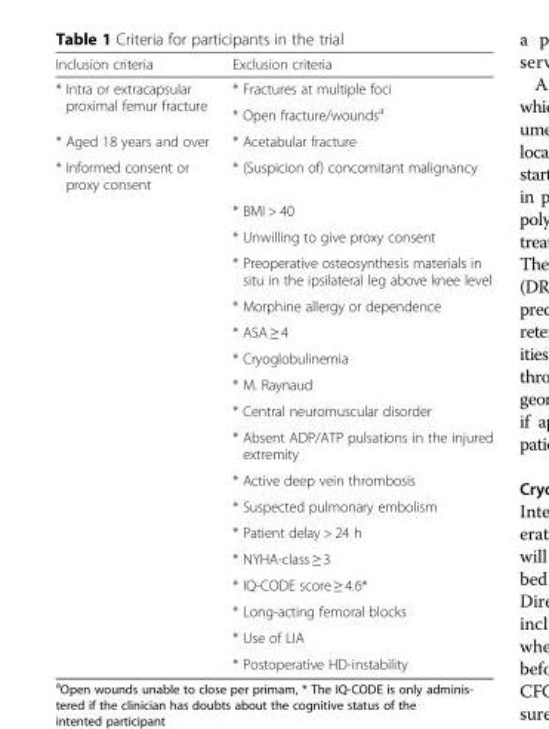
<table><thead><tr><td>Inclusion criteria</td><td>Exclusion criteria</td></tr></thead><tbody><tr><td rowspan="2">* Intra or extracapsular proximal femur fracture</td><td>* Fractures at multiple foci</td></tr><tr><td>* Open fracture/wounds<sup>a</sup></td></tr><tr><td>* Aged 18 years and over</td><td>* Acetabular fracture</td></tr><tr><td rowspan="18">* Informed consent or proxy consent</td><td>* (Suspicion of) concomitant malignancy</td></tr><tr><td>* BMI &gt; 40</td></tr><tr><td>* Unwilling to give proxy consent</td></tr><tr><td>* Preoperative osteosynthesis materials in situ in the ipsilateral leg above knee level</td></tr><tr><td>* Morphine allergy or dependence</td></tr><tr><td>* ASA ≥ 4</td></tr><tr><td>* Cryoglobulinemia</td></tr><tr><td>* M. Raynaud</td></tr><tr><td>* Central neuromuscular disorder</td></tr><tr><td>* Absent ADP/ATP pulsations in the injured extremity</td></tr><tr><td>* Active deep vein thrombosis</td></tr><tr><td>* Suspected pulmonary embolism</td></tr><tr><td>* Patient delay &gt; 24 h</td></tr><tr><td>* NYHA-class ≥ 3</td></tr><tr><td>* IQ-CODE score ≥ 4.6*</td></tr><tr><td>* Long-acting femoral blocks</td></tr><tr><td>* Use of LIA</td></tr><tr><td>* Postoperative HD-instability</td></tr></tbody></table>